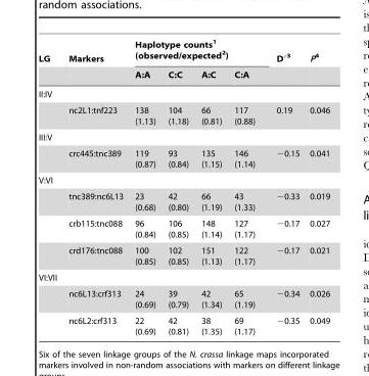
<table><thead><tr><td rowspan="2">LG</td><td rowspan="2">Markers</td><td colspan="4">Haplotype counts<sup>1</sup> (observed/expected<sup>2</sup>)</td><td rowspan="2">D′<sup>3</sup></td><td rowspan="2">P4</td></tr><tr><td>A:A</td><td>C:C</td><td>A:C</td><td>C:A</td></tr></thead><tbody><tr><td colspan="8">II:IV</td></tr><tr><td></td><td>nc2L1:tnf223</td><td>138 (1.13)</td><td>104 (1.18)</td><td>66 (0.81)</td><td>117 (0.88)</td><td>0.19</td><td>0.046</td></tr><tr><td colspan="8">III:V</td></tr><tr><td></td><td>crc445:tnc389</td><td>119 (0.87)</td><td>93 (0.84)</td><td>135 (1.15)</td><td>146 (1.14)</td><td>−0.15</td><td>0.041</td></tr><tr><td colspan="8">V:VI</td></tr><tr><td></td><td>tnc389:nc6L13</td><td>23 (0.68)</td><td>42 (0.80)</td><td>66 (1.19)</td><td>43 (1.33)</td><td>−0.33</td><td>0.019</td></tr><tr><td></td><td>crb115:tnc088</td><td>96 (0.84)</td><td>106 (0.85)</td><td>148 (1.14)</td><td>127 (1.17)</td><td>−0.17</td><td>0.027</td></tr><tr><td></td><td>crd176:tnc088</td><td>100 (0.85)</td><td>102 (0.85)</td><td>151 (1.13)</td><td>122 (1.17)</td><td>−0.17</td><td>0.021</td></tr><tr><td colspan="8">VI:VII</td></tr><tr><td></td><td>nc6L13:crf313</td><td>24 (0.69)</td><td>39 (0.79)</td><td>42 (1.34)</td><td>65 (1.19)</td><td>−0.34</td><td>0.026</td></tr><tr><td></td><td>nc6L2:crf313</td><td>22 (0.69)</td><td>42 (0.81)</td><td>38 (1.35)</td><td>69 (1.17)</td><td>−0.35</td><td>0.049</td></tr></tbody></table>